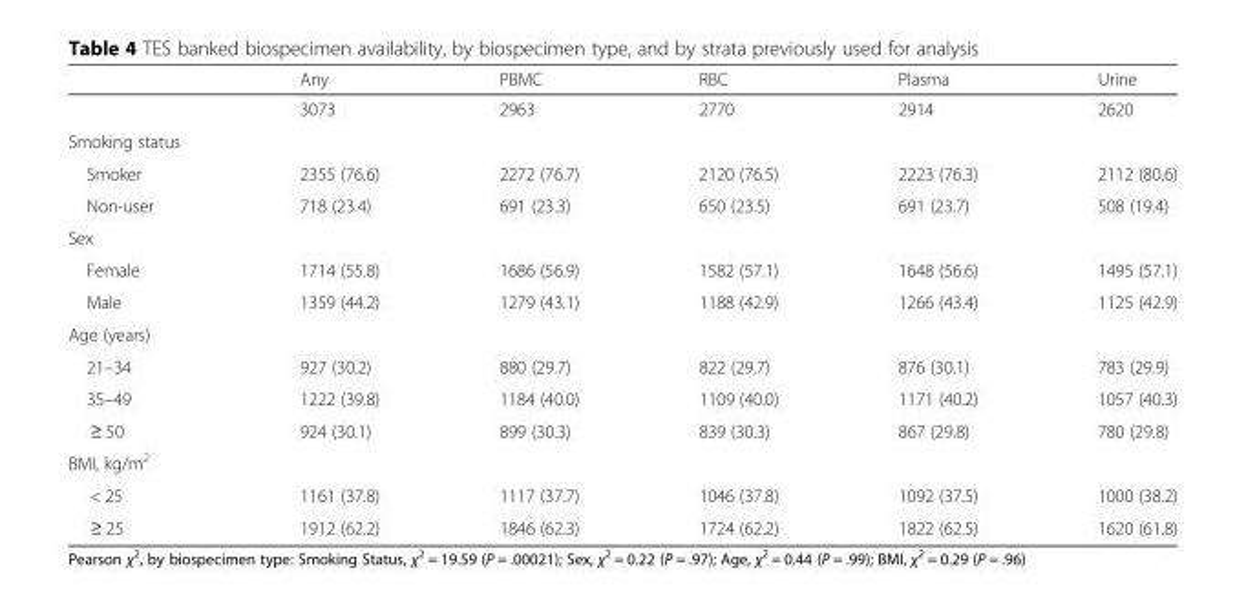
<table><thead><tr><td></td><td>Any</td><td>PBMC</td><td>RBC</td><td>Plasma</td><td>Urine</td></tr></thead><tbody><tr><td></td><td>3073</td><td>2963</td><td>2770</td><td>2914</td><td>2620</td></tr><tr><td colspan="6">Smoking status</td></tr><tr><td>Smoker</td><td>2355 (76.6)</td><td>2272 (76.7)</td><td>2120 (76.5)</td><td>2223 (76.3)</td><td>2112 (80.6)</td></tr><tr><td>Non-user</td><td>718 (23.4)</td><td>691 (23.3)</td><td>650 (23.5)</td><td>691 (23.7)</td><td>508 (19.4)</td></tr><tr><td colspan="6">Sex</td></tr><tr><td>Female</td><td>1714 (55.8)</td><td>1686 (56.9)</td><td>1582 (57.1)</td><td>1648 (56.6)</td><td>1495 (57.1)</td></tr><tr><td>Male</td><td>1359 (44.2)</td><td>1279 (43.1)</td><td>1188 (42.9)</td><td>1266 (43.4)</td><td>1125 (42.9)</td></tr><tr><td colspan="6">Age (years)</td></tr><tr><td>21–34</td><td>927 (30.2)</td><td>880 (29.7)</td><td>822 (29.7)</td><td>876 (30.1)</td><td>783 (29.9)</td></tr><tr><td>35–49</td><td>1222 (39.8)</td><td>1184 (40.0)</td><td>1109 (40.0)</td><td>1171 (40.2)</td><td>1057 (40.3)</td></tr><tr><td>≥ 50</td><td>924 (30.1)</td><td>899 (30.3)</td><td>839 (30.3)</td><td>867 (29.8)</td><td>780 (29.8)</td></tr><tr><td colspan="6">BMI, kg/m<sup>2</sup></td></tr><tr><td>&lt; 25</td><td>1161 (37.8)</td><td>1117 (37.7)</td><td>1046 (37.8)</td><td>1092 (37.5)</td><td>1000 (38.2)</td></tr><tr><td>≥ 25</td><td>1912 (62.2)</td><td>1846 (62.3)</td><td>1724 (62.2)</td><td>1822 (62.5)</td><td>1620 (61.8)</td></tr></tbody></table>